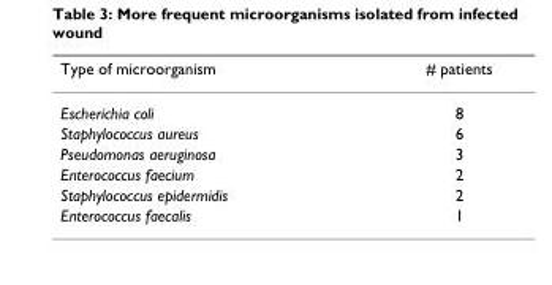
<table><thead><tr><td>Type of microorganism</td><td># patients</td></tr></thead><tbody><tr><td>Escherichia coli</td><td>8</td></tr><tr><td>Staphylococcus aureus</td><td>6</td></tr><tr><td>Pseudomonas aeruginosa</td><td>3</td></tr><tr><td>Enterococcus faecium</td><td>2</td></tr><tr><td>Staphylococcus epidermidis</td><td>2</td></tr><tr><td>Enterococcus faecalis</td><td>1</td></tr></tbody></table>